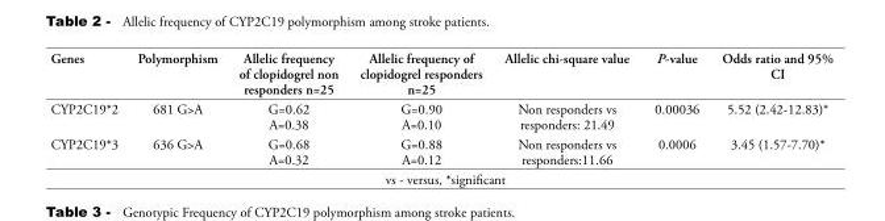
<table><thead><tr><td>Genes</td><td>Polymorphism</td><td>Allelic frequency of clopidogrel non responders n=25</td><td>Allelic frequency of clopidogrel responders n=25</td><td>Allelic chi-square value</td><td>P-value</td><td>Odds ratio and 95% CI</td></tr></thead><tbody><tr><td>CYP2C19*2</td><td>681 G&gt;A</td><td>G=0.62 A=0.38</td><td>G=0.90 A=0.10</td><td>Non responders vs responders: 21.49</td><td>0.00036</td><td>5.52 )2.42-12.83(*</td></tr><tr><td>CYP2C19*3</td><td>636 G&gt;A</td><td>G=0.68 A=0.32</td><td>G=0.88 A=0.12</td><td>Non responders vs responders:11.66</td><td>0.0006</td><td>3.45 )1.57-7.70(*</td></tr></tbody></table>